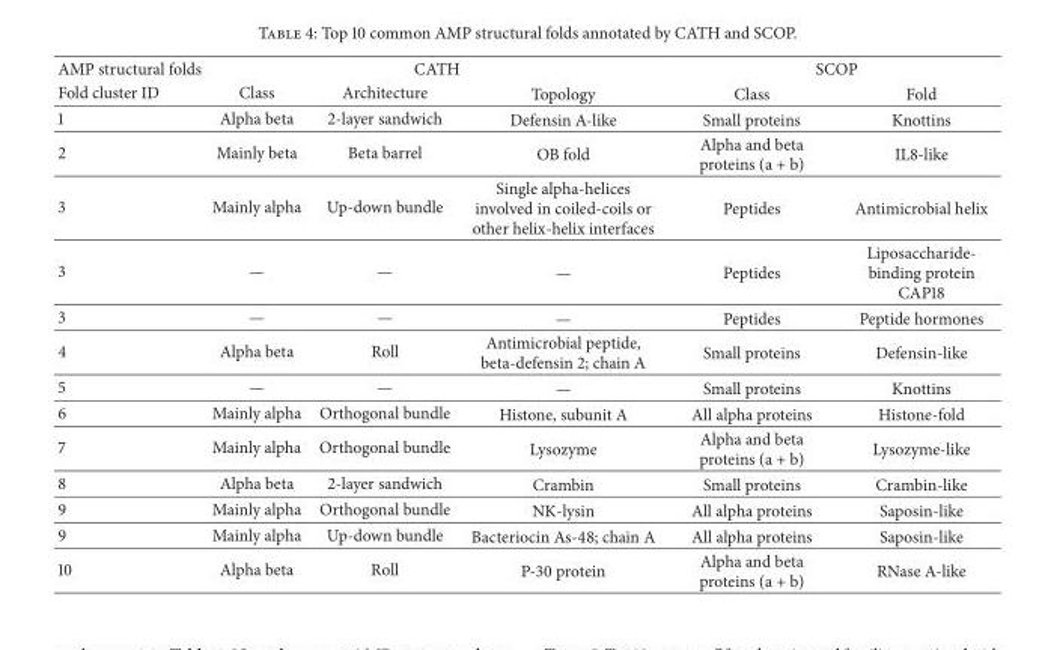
<table><thead><tr><td rowspan="2">AMP structural folds Fold cluster ID</td><td colspan="3">CATH</td><td colspan="2">SCOP</td></tr><tr><td>Class</td><td>Architecture</td><td>Topology</td><td>Class</td><td>Fold</td></tr></thead><tbody><tr><td>1</td><td>Alpha beta</td><td>2-layer sandwich</td><td>Defensin A-like</td><td>Small proteins</td><td>Knottins</td></tr><tr><td>2</td><td>Mainly beta</td><td>Beta barrel</td><td>OB fold</td><td>Alpha and beta proteins (a + b)</td><td>IL8-like</td></tr><tr><td>3</td><td>Mainly alpha</td><td>Up-down bundle</td><td>Single alpha-helices involved in coiled-coils or other helix-helix interfaces</td><td>Peptides</td><td>Antimicrobial helix</td></tr><tr><td>3</td><td>—</td><td>—</td><td>—</td><td>Peptides</td><td>Liposaccharide- binding protein CAP18</td></tr><tr><td>3</td><td>—</td><td>—</td><td>—</td><td>Peptides</td><td>Peptide hormones</td></tr><tr><td>4</td><td>Alpha beta</td><td>Roll</td><td>Antimicrobial peptide, beta-defensin 2; chain A</td><td>Small proteins</td><td>Defensin-like</td></tr><tr><td>5</td><td>—</td><td>—</td><td>—</td><td>Small proteins</td><td>Knottins</td></tr><tr><td>6</td><td>Mainly alpha</td><td>Orthogonal bundle</td><td>Histone, subunit A</td><td>All alpha proteins</td><td>Histone-fold</td></tr><tr><td>7</td><td>Mainly alpha</td><td>Orthogonal bundle</td><td>Lysozyme</td><td>Alpha and beta proteins (a + b)</td><td>Lysozyme-like</td></tr><tr><td>8</td><td>Alpha beta</td><td>2-layer sandwich</td><td>Crambin</td><td>Small proteins</td><td>Crambin-like</td></tr><tr><td>9</td><td>Mainly alpha</td><td>Orthogonal bundle</td><td>NK-lysin</td><td>All alpha proteins</td><td>Saposin-like</td></tr><tr><td>9</td><td>Mainly alpha</td><td>Up-down bundle</td><td>Bacteriocin As-48; chain A</td><td>All alpha proteins</td><td>Saposin-like</td></tr><tr><td>10</td><td>Alpha beta</td><td>Roll</td><td>P-30 protein</td><td>Alpha and beta proteins (a + b)</td><td>RNase A-like</td></tr></tbody></table>